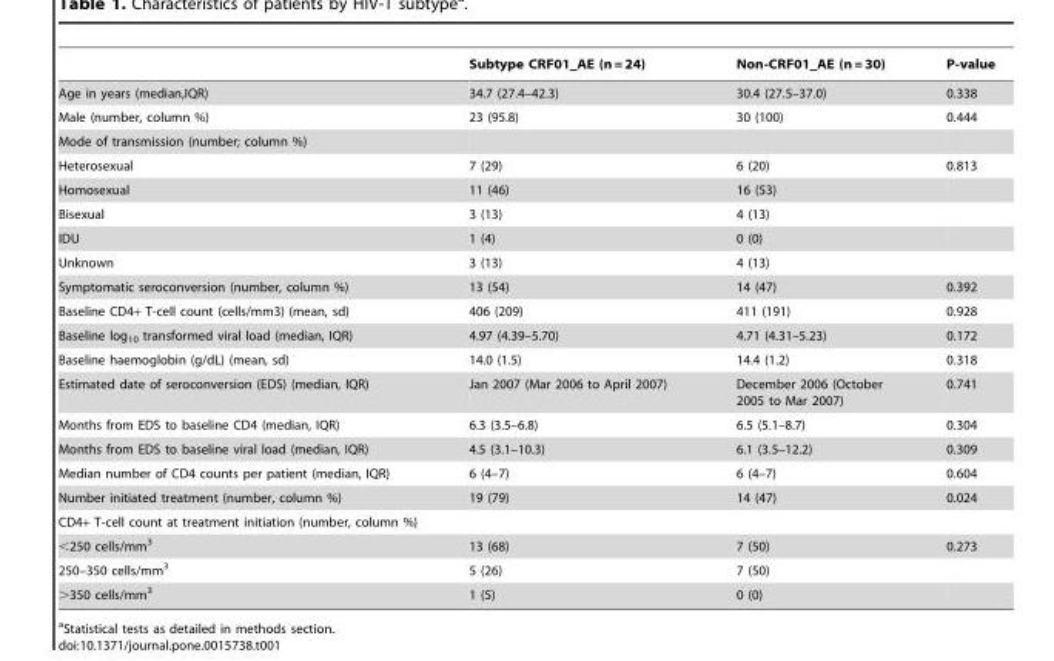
<table><thead><tr><td></td><td>Subtype CRF01__AE (n = 24)</td><td>Non-CRF01__AE (n = 30)</td><td>P-value</td></tr></thead><tbody><tr><td>Age in years (median,IQR)</td><td>34.7 (27.4–42.3)</td><td>30.4 (27.5–37.0)</td><td>0.338</td></tr><tr><td>Male (number, column %)</td><td>23 (95.8)</td><td>30 (100)</td><td>0.444</td></tr><tr><td colspan="4">Mode of transmission (number; column %)</td></tr><tr><td>Heterosexual</td><td>7 (29)</td><td>6 (20)</td><td>0.813</td></tr><tr><td>Homosexual</td><td>11 (46)</td><td>16 (53)</td><td></td></tr><tr><td>Bisexual</td><td>3 (13)</td><td>4 (13)</td><td></td></tr><tr><td>IDU</td><td>1 (4)</td><td>0 (0)</td><td></td></tr><tr><td>Unknown</td><td>3 (13)</td><td>4 (13)</td><td></td></tr><tr><td>Symptomatic seroconversion (number, column %)</td><td>13 (54)</td><td>14 (47)</td><td>0.392</td></tr><tr><td>Baseline CD4+ T-cell count (cells/mm3) (mean, sd)</td><td>406 (209)</td><td>411 (191)</td><td>0.928</td></tr><tr><td>Baseline log<sub>10</sub> transformed viral load (median, IQR)</td><td>4.97 (4.39–5.70)</td><td>4.71 (4.31–5.23)</td><td>0.172</td></tr><tr><td>Baseline haemoglobin (g/dL) (mean, sd)</td><td>14.0 (1.5)</td><td>14.4 (1.2)</td><td>0.318</td></tr><tr><td>Estimated date of seroconversion (EDS) (median, IQR)</td><td>Jan 2007 (Mar 2006 to April 2007)</td><td>December 2006 (October 2005 to Mar 2007)</td><td>0.741</td></tr><tr><td>Months from EDS to baseline CD4 (median, IQR)</td><td>6.3 (3.5–6.8)</td><td>6.5 (5.1–8.7)</td><td>0.304</td></tr><tr><td>Months from EDS to baseline viral load (median, IQR)</td><td>4.5 (3.1–10.3)</td><td>6.1 (3.5–12.2)</td><td>0.309</td></tr><tr><td>Median number of CD4 counts per patient (median, IQR)</td><td>6 (4–7)</td><td>6 (4–7)</td><td>0.604</td></tr><tr><td>Number initiated treatment (number, column %)</td><td>19 (79)</td><td>14 (47)</td><td>0.024</td></tr><tr><td colspan="4">CD4+ T-cell count at treatment initiation (number, column %)</td></tr><tr><td>&lt;250 cells/mm<sup>3</sup></td><td>13 (68)</td><td>7 (50)</td><td>0.273</td></tr><tr><td>250–350 cells/mm<sup>3</sup></td><td>5 (26)</td><td>7 (50)</td><td></td></tr><tr><td>&gt;350 cells/mm<sup>3</sup></td><td>1 (5)</td><td>0 (0)</td><td></td></tr></tbody></table>